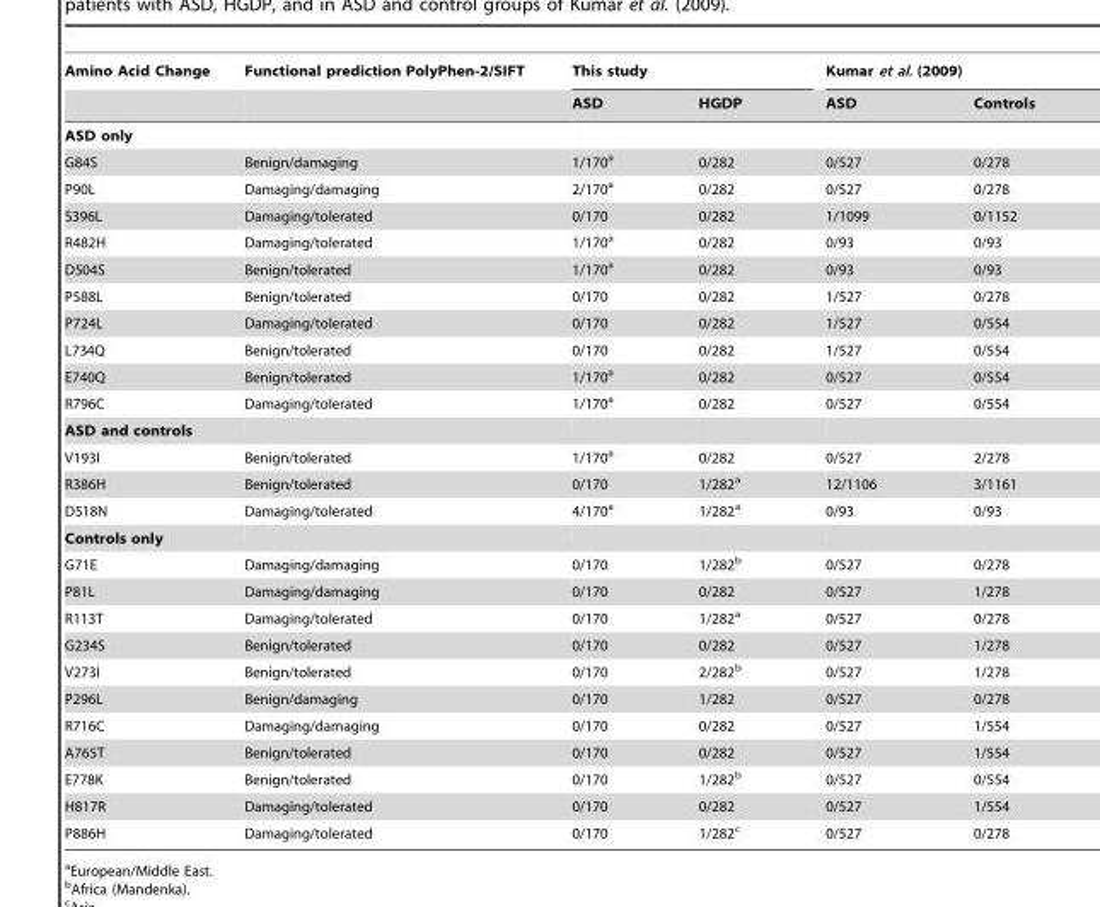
<table><thead><tr><td rowspan="2">Amino Acid Change</td><td rowspan="2">Functional prediction PolyPhen-2/SIFT</td><td colspan="2">This study</td><td colspan="2">Kumar et al. (2009)</td></tr><tr><td>ASD</td><td>HGDP</td><td>ASD</td><td>Controls</td></tr></thead><tbody><tr><td colspan="6">ASD only</td></tr><tr><td>G84S</td><td>Benign/damaging</td><td>1/170<sup>a</sup></td><td>0/282</td><td>0/527</td><td>0/278</td></tr><tr><td>P90L</td><td>Damaging/damaging</td><td>2/170<sup>a</sup></td><td>0/282</td><td>0/527</td><td>0/278</td></tr><tr><td>S396L</td><td>Damaging/tolerated</td><td>0/170</td><td>0/282</td><td>1/1099</td><td>0/1152</td></tr><tr><td>R482H</td><td>Damaging/tolerated</td><td>1/170<sup>a</sup></td><td>0/282</td><td>0/93</td><td>0/93</td></tr><tr><td>D504S</td><td>Benign/tolerated</td><td>1/170<sup>a</sup></td><td>0/282</td><td>0/93</td><td>0/93</td></tr><tr><td>P588L</td><td>Benign/tolerated</td><td>0/170</td><td>0/282</td><td>1/527</td><td>0/278</td></tr><tr><td>P724L</td><td>Damaging/tolerated</td><td>0/170</td><td>0/282</td><td>1/527</td><td>0/554</td></tr><tr><td>L734Q</td><td>Benign/tolerated</td><td>0/170</td><td>0/282</td><td>1/527</td><td>0/554</td></tr><tr><td>E740Q</td><td>Benign/tolerated</td><td>1/170<sup>a</sup></td><td>0/282</td><td>0/527</td><td>0/554</td></tr><tr><td>R796C</td><td>Damaging/tolerated</td><td>1/170<sup>a</sup></td><td>0/282</td><td>0/527</td><td>0/554</td></tr><tr><td colspan="6">ASD and controls</td></tr><tr><td>V193I</td><td>Benign/tolerated</td><td>1/170<sup>a</sup></td><td>0/282</td><td>0/527</td><td>2/278</td></tr><tr><td>R386H</td><td>Benign/tolerated</td><td>0/170</td><td>1/282<sup>a</sup></td><td>12/1106</td><td>3/1161</td></tr><tr><td>D518N</td><td>Damaging/tolerated</td><td>4/170<sup>a</sup></td><td>1/282<sup>a</sup></td><td>0/93</td><td>0/93</td></tr><tr><td colspan="6">Controls only</td></tr><tr><td>G71E</td><td>Damaging/damaging</td><td>0/170</td><td>1/282<sup>b</sup></td><td>0/527</td><td>0/278</td></tr><tr><td>P81L</td><td>Damaging/damaging</td><td>0/170</td><td>0/282</td><td>0/527</td><td>1/278</td></tr><tr><td>R113T</td><td>Damaging/tolerated</td><td>0/170</td><td>1/282<sup>a</sup></td><td>0/527</td><td>0/278</td></tr><tr><td>G234S</td><td>Benign/tolerated</td><td>0/170</td><td>0/282</td><td>0/527</td><td>1/278</td></tr><tr><td>V273I</td><td>Benign/tolerated</td><td>0/170</td><td>2/282<sup>b</sup></td><td>0/527</td><td>1/278</td></tr><tr><td>P296L</td><td>Benign/damaging</td><td>0/170</td><td>1/282</td><td>0/527</td><td>0/278</td></tr><tr><td>R716C</td><td>Damaging/damaging</td><td>0/170</td><td>0/282</td><td>0/527</td><td>1/554</td></tr><tr><td>A765T</td><td>Benign/tolerated</td><td>0/170</td><td>0/282</td><td>0/527</td><td>1/554</td></tr><tr><td>E778K</td><td>Benign/tolerated</td><td>0/170</td><td>1/282<sup>b</sup></td><td>0/527</td><td>0/554</td></tr><tr><td>H817R</td><td>Damaging/tolerated</td><td>0/170</td><td>0/282</td><td>0/527</td><td>1/554</td></tr><tr><td>P886H</td><td>Damaging/tolerated</td><td>0/170</td><td>1/282<sup>c</sup></td><td>0/527</td><td>0/278</td></tr></tbody></table>